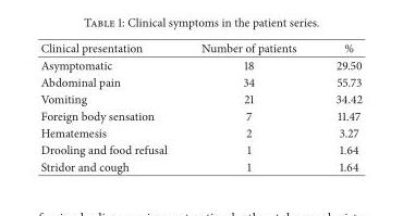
<table><thead><tr><td>Clinical presentation</td><td>Number of patients</td><td>%</td></tr></thead><tbody><tr><td>Asymptomatic</td><td>18</td><td>29.50</td></tr><tr><td>Abdominal pain</td><td>34</td><td>55.73</td></tr><tr><td>Vomiting</td><td>21</td><td>34.42</td></tr><tr><td>Foreign body sensation</td><td>7</td><td>11.47</td></tr><tr><td>Hematemesis</td><td>2</td><td>3.27</td></tr><tr><td>Drooling and food refusal</td><td>1</td><td>1.64</td></tr><tr><td>Stridor and cough</td><td>1</td><td>1.64</td></tr></tbody></table>